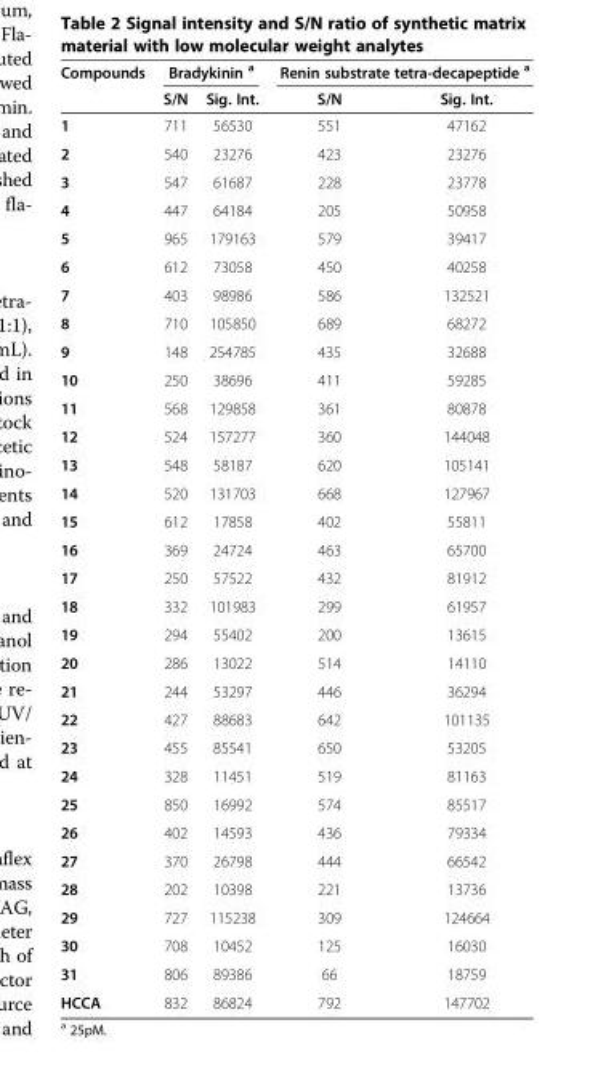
<table><thead><tr><td rowspan="2">Compounds</td><td colspan="2">Bradykinin <sup>a</sup></td><td colspan="2">Renin substrate tetra-decapeptide <sup>a</sup></td></tr><tr><td>S/N</td><td>Sig. Int.</td><td>S/N</td><td>Sig. Int.</td></tr></thead><tbody><tr><td>1</td><td>711</td><td>56530</td><td>551</td><td>47162</td></tr><tr><td>2</td><td>540</td><td>23276</td><td>423</td><td>23276</td></tr><tr><td>3</td><td>547</td><td>61687</td><td>228</td><td>23778</td></tr><tr><td>4</td><td>447</td><td>64184</td><td>205</td><td>50958</td></tr><tr><td>5</td><td>965</td><td>179163</td><td>579</td><td>39417</td></tr><tr><td>6</td><td>612</td><td>73058</td><td>450</td><td>40258</td></tr><tr><td>7</td><td>403</td><td>98986</td><td>586</td><td>132521</td></tr><tr><td>8</td><td>710</td><td>105850</td><td>689</td><td>68272</td></tr><tr><td>9</td><td>148</td><td>254785</td><td>435</td><td>32688</td></tr><tr><td>10</td><td>250</td><td>38696</td><td>411</td><td>59285</td></tr><tr><td>11</td><td>568</td><td>129858</td><td>361</td><td>80878</td></tr><tr><td>12</td><td>524</td><td>157277</td><td>360</td><td>144048</td></tr><tr><td>13</td><td>548</td><td>58187</td><td>620</td><td>105141</td></tr><tr><td>14</td><td>520</td><td>131703</td><td>668</td><td>127967</td></tr><tr><td>15</td><td>612</td><td>17858</td><td>402</td><td>55811</td></tr><tr><td>16</td><td>369</td><td>24724</td><td>463</td><td>65700</td></tr><tr><td>17</td><td>250</td><td>57522</td><td>432</td><td>81912</td></tr><tr><td>18</td><td>332</td><td>101983</td><td>299</td><td>61957</td></tr><tr><td>19</td><td>294</td><td>55402</td><td>200</td><td>13615</td></tr><tr><td>20</td><td>286</td><td>13022</td><td>514</td><td>14110</td></tr><tr><td>21</td><td>244</td><td>53297</td><td>446</td><td>36294</td></tr><tr><td>22</td><td>427</td><td>88683</td><td>642</td><td>101135</td></tr><tr><td>23</td><td>455</td><td>85541</td><td>650</td><td>53205</td></tr><tr><td>24</td><td>328</td><td>11451</td><td>519</td><td>81163</td></tr><tr><td>25</td><td>850</td><td>16992</td><td>574</td><td>85517</td></tr><tr><td>26</td><td>402</td><td>14593</td><td>436</td><td>79334</td></tr><tr><td>27</td><td>370</td><td>26798</td><td>444</td><td>66542</td></tr><tr><td>28</td><td>202</td><td>10398</td><td>221</td><td>13736</td></tr><tr><td>29</td><td>727</td><td>115238</td><td>309</td><td>124664</td></tr><tr><td>30</td><td>708</td><td>10452</td><td>125</td><td>16030</td></tr><tr><td>31</td><td>806</td><td>89386</td><td>66</td><td>18759</td></tr><tr><td>HCCA</td><td>832</td><td>86824</td><td>792</td><td>147702</td></tr></tbody></table>